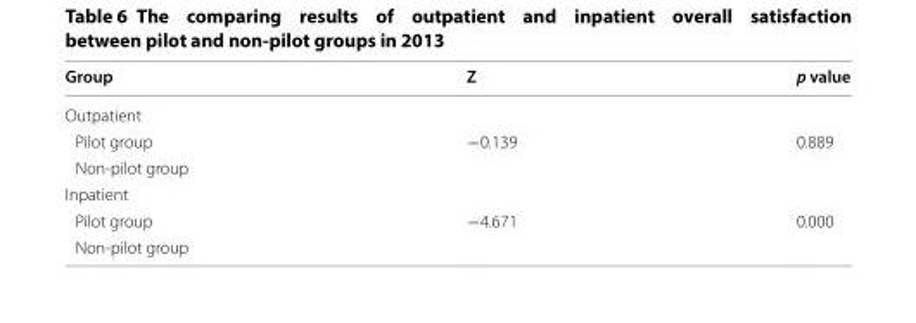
<table><thead><tr><td>Group</td><td>Z</td><td>p value</td></tr></thead><tbody><tr><td colspan="3">Outpatient</td></tr><tr><td>Pilot group</td><td rowspan="2">−0.139</td><td rowspan="2">0.889</td></tr><tr><td>Non‑pilot group</td></tr><tr><td colspan="3">Inpatient</td></tr><tr><td>Pilot group</td><td rowspan="2">−4.671</td><td rowspan="2">0.000</td></tr><tr><td>Non‑pilot group</td></tr></tbody></table>